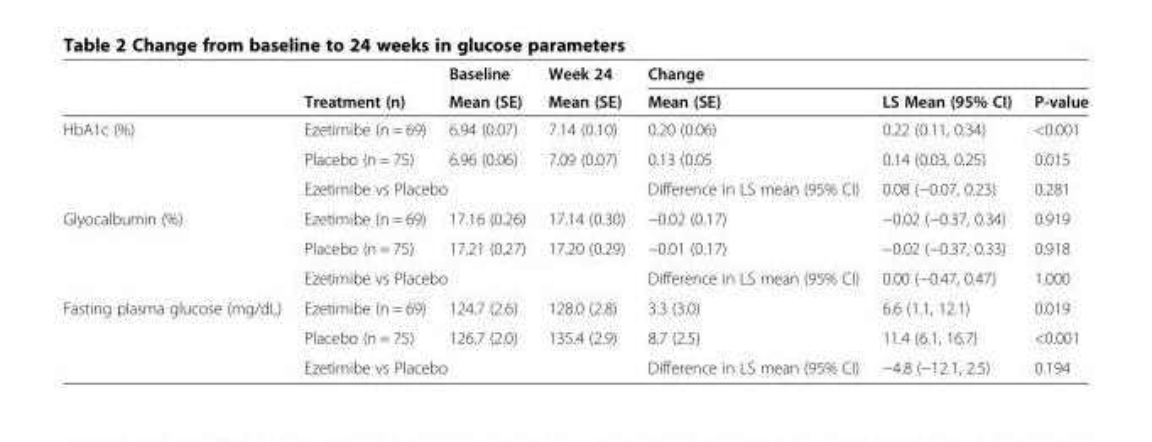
<table><thead><tr><td rowspan="2"></td><td rowspan="2">Treatment (n)</td><td rowspan="2">Baseline Mean (SE)</td><td rowspan="2">Week 24 Mean (SE)</td><td colspan="3">Change</td></tr><tr><td>Mean (SE)</td><td>LS Mean (95% CI)</td><td>P-value</td></tr></thead><tbody><tr><td rowspan="3">HbA1c (%)</td><td>Ezetimibe (n = 69)</td><td>6.94 (0.07)</td><td>7.14 (0.10)</td><td>0.20 (0.06)</td><td>0.22 (0.11, 0.34)</td><td>&lt;0.001</td></tr><tr><td>Placebo (n = 75)</td><td>6.96 (0.06)</td><td>7.09 (0.07)</td><td>0.13 (0.05</td><td>0.14 (0.03, 0.25)</td><td>0.015</td></tr><tr><td colspan="2">Ezetimibe vs Placebo</td><td></td><td>Difference in LS mean (95% CI)</td><td>0.08 (−0.07, 0.23)</td><td>0.281</td></tr><tr><td rowspan="3">Glyocalbumin (%)</td><td>Ezetimibe (n = 69)</td><td>17.16 (0.26)</td><td>17.14 (0.30)</td><td>−0.02 (0.17)</td><td>−0.02 (−0.37, 0.34)</td><td>0.919</td></tr><tr><td>Placebo (n = 75)</td><td>17.21 (0.27)</td><td>17.20 (0.29)</td><td>−0.01 (0.17)</td><td>−0.02 (−0.37, 0.33)</td><td>0.918</td></tr><tr><td colspan="2">Ezetimibe vs Placebo</td><td></td><td>Difference in LS mean (95% CI)</td><td>0.00 (−0.47, 0.47)</td><td>1.000</td></tr><tr><td rowspan="3">Fasting plasma glucose (mg/dL)</td><td>Ezetimibe (n = 69)</td><td>124.7 (2.6)</td><td>128.0 (2.8)</td><td>3.3 (3.0)</td><td>6.6 (1.1, 12.1)</td><td>0.019</td></tr><tr><td>Placebo (n = 75)</td><td>126.7 (2.0)</td><td>135.4 (2.9)</td><td>8.7 (2.5)</td><td>11.4 (6.1, 16.7)</td><td>&lt;0.001</td></tr><tr><td colspan="2">Ezetimibe vs Placebo</td><td></td><td>Difference in LS mean (95% CI)</td><td>−4.8 (−12.1, 2.5)</td><td>0.194</td></tr></tbody></table>